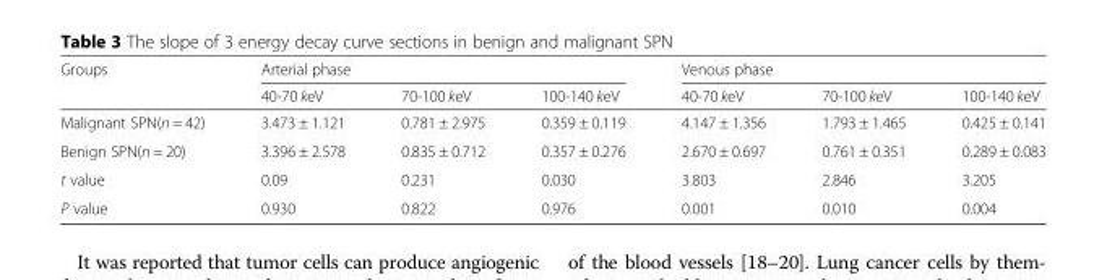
<table><thead><tr><td rowspan="2">Groups</td><td colspan="3">Arterial phase</td><td colspan="3">Venous phase</td></tr><tr><td>40-70 keV</td><td>70-100 keV</td><td>100-140 keV</td><td>40-70 keV</td><td>70-100 keV</td><td>100-140 keV</td></tr></thead><tbody><tr><td>Malignant SPN(n = 42)</td><td>3.473 ± 1.121</td><td>0.781 ± 2.975</td><td>0.359 ± 0.119</td><td>4.147 ± 1.356</td><td>1.793 ± 1.465</td><td>0.425 ± 0.141</td></tr><tr><td>Benign SPN(n = 20)</td><td>3.396 ± 2.578</td><td>0.835 ± 0.712</td><td>0.357 ± 0.276</td><td>2.670 ± 0.697</td><td>0.761 ± 0.351</td><td>0.289 ± 0.083</td></tr><tr><td>t value</td><td>0.09</td><td>0.231</td><td>0.030</td><td>3.803</td><td>2.846</td><td>3.205</td></tr><tr><td>P value</td><td>0.930</td><td>0.822</td><td>0.976</td><td>0.001</td><td>0.010</td><td>0.004</td></tr></tbody></table>